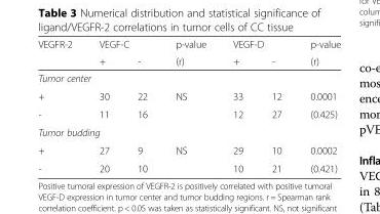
<table><thead><tr><td rowspan="2">VEGFR-2</td><td colspan="2">VEGF-C</td><td rowspan="2">p-value (r)</td><td colspan="2">VEGF-D</td><td rowspan="2">p-value (r)</td></tr><tr><td>+</td><td>-</td><td>+</td><td>-</td></tr></thead><tbody><tr><td colspan="7">Tumor center</td></tr><tr><td>+</td><td>30</td><td>22</td><td>NS</td><td>33</td><td>12</td><td>0.0001</td></tr><tr><td>-</td><td>11</td><td>16</td><td></td><td>12</td><td>27</td><td>(0.425)</td></tr><tr><td colspan="7">Tumor budding</td></tr><tr><td>+</td><td>27</td><td>9</td><td>NS</td><td>29</td><td>10</td><td>0.0002</td></tr><tr><td>-</td><td>20</td><td>10</td><td></td><td>10</td><td>21</td><td>(0.421)</td></tr></tbody></table>